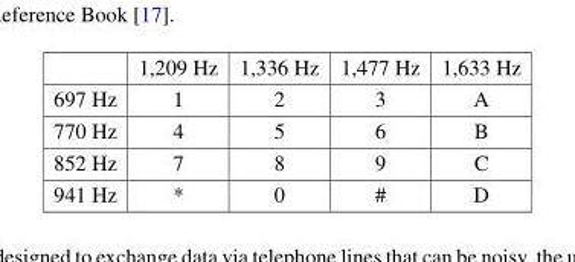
<table><thead><tr><td></td><td>1,209 Hz</td><td>1,336 Hz</td><td>1,477 Hz</td><td>1,633 Hz</td></tr></thead><tbody><tr><td>697 Hz</td><td>1</td><td>2</td><td>3</td><td>A</td></tr><tr><td>770 Hz</td><td>4</td><td>5</td><td>6</td><td>B</td></tr><tr><td>852 Hz</td><td>7</td><td>8</td><td>9</td><td>C</td></tr><tr><td>941 Hz</td><td>*</td><td>0</td><td>#</td><td>D</td></tr></tbody></table>